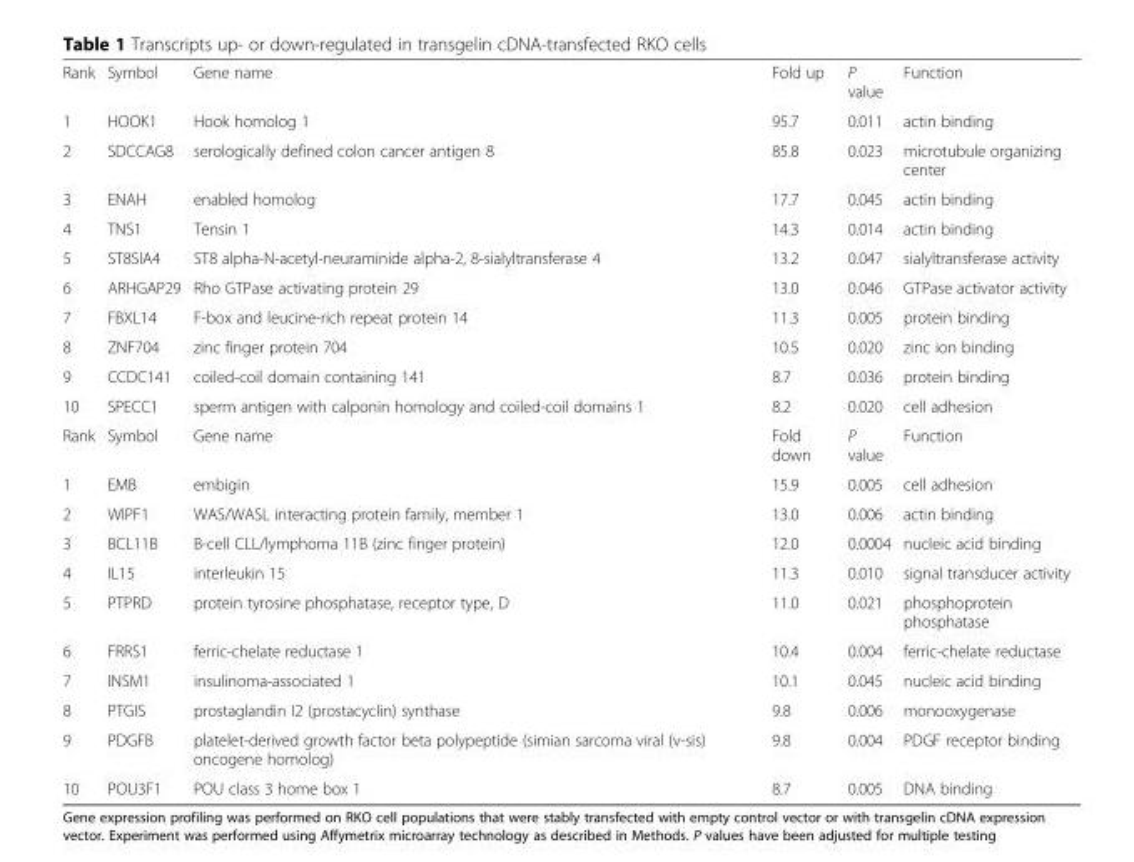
<table><tbody><tr><td>Rank</td><td>Symbol</td><td>Gene name</td><td>Fold up</td><td>P value</td><td>Function</td></tr><tr><td>1</td><td>HOOK1</td><td>Hook homolog 1</td><td>95.7</td><td>0.011</td><td>actin binding</td></tr><tr><td>2</td><td>SDCCAG8</td><td>serologically defined colon cancer antigen 8</td><td>85.8</td><td>0.023</td><td>microtubule organizing center</td></tr><tr><td>3</td><td>ENAH</td><td>enabled homolog</td><td>17.7</td><td>0.045</td><td>actin binding</td></tr><tr><td>4</td><td>TNS1</td><td>Tensin 1</td><td>14.3</td><td>0.014</td><td>actin binding</td></tr><tr><td>5</td><td>ST8SIA4</td><td>ST8 alpha-N-acetyl-neuraminide alpha-2, 8-sialyltransferase 4</td><td>13.2</td><td>0.047</td><td>sialyltransferase activity</td></tr><tr><td>6</td><td>ARHGAP29</td><td>Rho GTPase activating protein 29</td><td>13.0</td><td>0.046</td><td>GTPase activator activity</td></tr><tr><td>7</td><td>FBXL14</td><td>F-box and leucine-rich repeat protein 14</td><td>11.3</td><td>0.005</td><td>protein binding</td></tr><tr><td>8</td><td>ZNF704</td><td>zinc finger protein 704</td><td>10.5</td><td>0.020</td><td>zinc ion binding</td></tr><tr><td>9</td><td>CCDC141</td><td>coiled-coil domain containing 141</td><td>8.7</td><td>0.036</td><td>protein binding</td></tr><tr><td>10</td><td>SPECC1</td><td>sperm antigen with calponin homology and coiled-coil domains 1</td><td>8.2</td><td>0.020</td><td>cell adhesion</td></tr><tr><td>Rank</td><td>Symbol</td><td>Gene name</td><td>Fold down</td><td>P value</td><td>Function</td></tr><tr><td>1</td><td>EMB</td><td>embigin</td><td>15.9</td><td>0.005</td><td>cell adhesion</td></tr><tr><td>2</td><td>WIPF1</td><td>WAS/WASL interacting protein family, member 1</td><td>13.0</td><td>0.006</td><td>actin binding</td></tr><tr><td>3</td><td>BCL11B</td><td>B-cell CLL/lymphoma 11B (zinc finger protein)</td><td>12.0</td><td>0.0004</td><td>nucleic acid binding</td></tr><tr><td>4</td><td>IL15</td><td>interleukin 15</td><td>11.3</td><td>0.010</td><td>signal transducer activity</td></tr><tr><td>5</td><td>PTPRD</td><td>protein tyrosine phosphatase, receptor type, D</td><td>11.0</td><td>0.021</td><td>phosphoprotein phosphatase</td></tr><tr><td>6</td><td>FRRS1</td><td>ferric-chelate reductase 1</td><td>10.4</td><td>0.004</td><td>ferric-chelate reductase</td></tr><tr><td>7</td><td>INSM1</td><td>insulinoma-associated 1</td><td>10.1</td><td>0.045</td><td>nucleic acid binding</td></tr><tr><td>8</td><td>PTGIS</td><td>prostaglandin I2 (prostacyclin) synthase</td><td>9.8</td><td>0.006</td><td>monooxygenase</td></tr><tr><td>9</td><td>PDGFB</td><td>platelet-derived growth factor beta polypeptide (simian sarcoma viral (v-sis) oncogene homolog)</td><td>9.8</td><td>0.004</td><td>PDGF receptor binding</td></tr><tr><td>10</td><td>POU3F1</td><td>POU class 3 home box 1</td><td>8.7</td><td>0.005</td><td>DNA binding</td></tr></tbody></table>